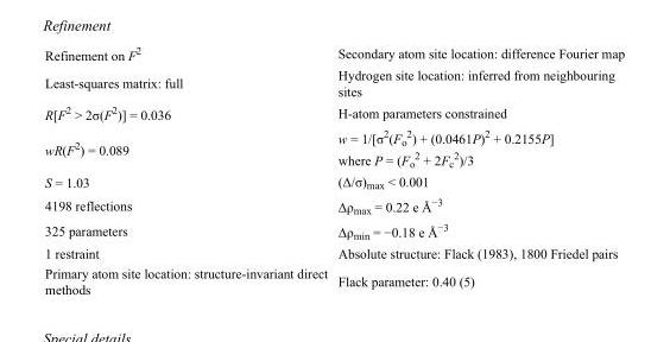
<table><tbody><tr><td>Refinement on F<sup>2</sup></td><td>Secondary atom site location: difference Fourier map</td></tr><tr><td>Least-squares matrix: full</td><td>Hydrogen site location: inferred from neighbouring sites</td></tr><tr><td>R[F<sup>2</sup> &gt; 2σ(F<sup>2</sup>)] = 0.036</td><td>H-atom parameters constrained</td></tr><tr><td>wR(F<sup>2</sup>) = 0.089</td><td>w = 1/[σ<sup>2</sup>(F<sub>o</sub> <sup>2</sup>) + (0.0461P)<sup>2</sup> + 0.2155P] where P = (F<sub>o</sub> <sup>2</sup> + 2F<sub>c</sub> <sup>2</sup>)/3</td></tr><tr><td>S = 1.03</td><td>(Δ/σ)<sub>max</sub> &lt; 0.001</td></tr><tr><td>4198 reflections</td><td>Δρ<sub>max</sub> = 0.22 e Å<sup>−3</sup></td></tr><tr><td>325 parameters</td><td>Δρ<sub>min</sub> = −0.18 e Å<sup>−3</sup></td></tr><tr><td>1 restraint</td><td>Absolute structure: Flack (1983), 1800 Friedel pairs</td></tr><tr><td>Primary atom site location: structure-invariant direct methods</td><td>Flack parameter: 0.40 (5)</td></tr></tbody></table>